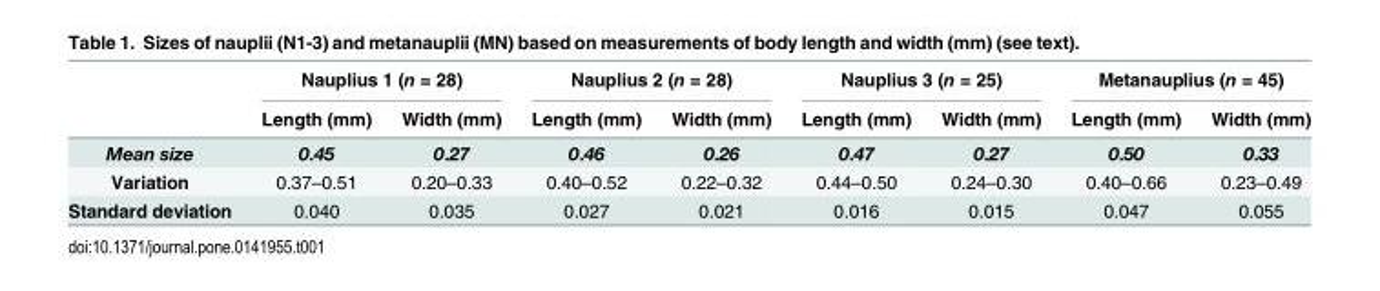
<table><thead><tr><td rowspan="2"></td><td colspan="2">Nauplius 1 (n = 28)</td><td colspan="2">Nauplius 2 (n = 28)</td><td colspan="2">Nauplius 3 (n = 25)</td><td colspan="2">Metanauplius (n = 45)</td></tr><tr><td>Length (mm)</td><td>Width (mm)</td><td>Length (mm)</td><td>Width (mm)</td><td>Length (mm)</td><td>Width (mm)</td><td>Length (mm)</td><td>Width (mm)</td></tr></thead><tbody><tr><td>Mean size</td><td>0.45</td><td>0.27</td><td>0.46</td><td>0.26</td><td>0.47</td><td>0.27</td><td>0.50</td><td>0.33</td></tr><tr><td>Variation</td><td>0.37–0.51</td><td>0.20–0.33</td><td>0.40–0.52</td><td>0.22–0.32</td><td>0.44–0.50</td><td>0.24–0.30</td><td>0.40–0.66</td><td>0.23–0.49</td></tr><tr><td>Standard deviation</td><td>0.040</td><td>0.035</td><td>0.027</td><td>0.021</td><td>0.016</td><td>0.015</td><td>0.047</td><td>0.055</td></tr></tbody></table>